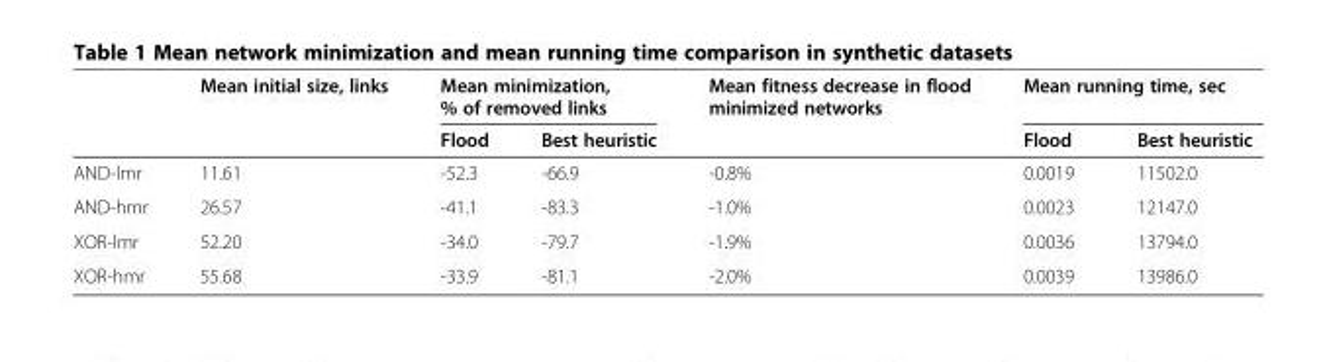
<table><thead><tr><td rowspan="2"></td><td rowspan="2">Mean initial size, links</td><td colspan="2">Mean minimization, % of removed links</td><td rowspan="2">Mean fitness decrease in flood minimized networks</td><td colspan="2">Mean running time, sec</td></tr><tr><td>Flood</td><td>Best heuristic</td><td>Flood</td><td>Best heuristic</td></tr></thead><tbody><tr><td>AND-lmr</td><td>11.61</td><td>-52.3</td><td>-66.9</td><td>-0.8%</td><td>0.0019</td><td>11502.0</td></tr><tr><td>AND-hmr</td><td>26.57</td><td>-41.1</td><td>-83.3</td><td>-1.0%</td><td>0.0023</td><td>12147.0</td></tr><tr><td>XOR-lmr</td><td>52.20</td><td>-34.0</td><td>-79.7</td><td>-1.9%</td><td>0.0036</td><td>13794.0</td></tr><tr><td>XOR-hmr</td><td>55.68</td><td>-33.9</td><td>-81.1</td><td>-2.0%</td><td>0.0039</td><td>13986.0</td></tr></tbody></table>